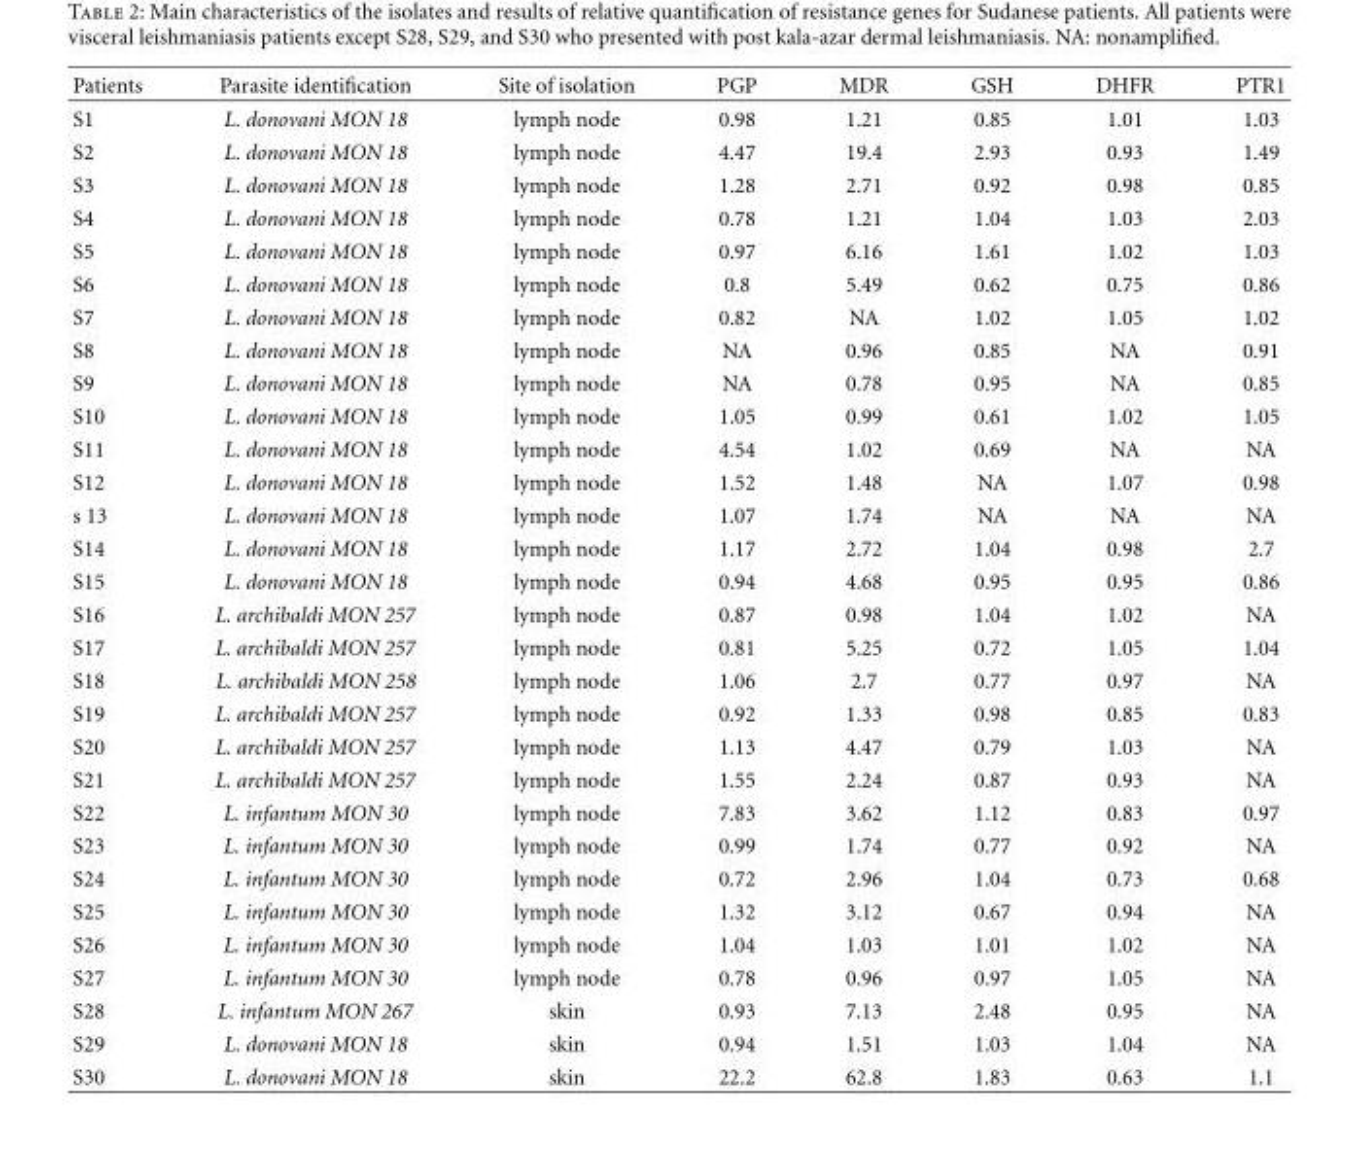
<table><thead><tr><td>Patients</td><td>Parasite identification</td><td>Site of isolation</td><td>PGP</td><td>MDR</td><td>GSH</td><td>DHFR</td><td>PTR1</td></tr></thead><tbody><tr><td>S1</td><td>L. donovani MON 18</td><td>lymph node</td><td>0.98</td><td>1.21</td><td>0.85</td><td>1.01</td><td>1.03</td></tr><tr><td>S2</td><td>L. donovani MON 18</td><td>lymph node</td><td>4.47</td><td>19.4</td><td>2.93</td><td>0.93</td><td>1.49</td></tr><tr><td>S3</td><td>L. donovani MON 18</td><td>lymph node</td><td>1.28</td><td>2.71</td><td>0.92</td><td>0.98</td><td>0.85</td></tr><tr><td>S4</td><td>L. donovani MON 18</td><td>lymph node</td><td>0.78</td><td>1.21</td><td>1.04</td><td>1.03</td><td>2.03</td></tr><tr><td>S5</td><td>L. donovani MON 18</td><td>lymph node</td><td>0.97</td><td>6.16</td><td>1.61</td><td>1.02</td><td>1.03</td></tr><tr><td>S6</td><td>L. donovani MON 18</td><td>lymph node</td><td>0.8</td><td>5.49</td><td>0.62</td><td>0.75</td><td>0.86</td></tr><tr><td>S7</td><td>L. donovani MON 18</td><td>lymph node</td><td>0.82</td><td>NA</td><td>1.02</td><td>1.05</td><td>1.02</td></tr><tr><td>S8</td><td>L. donovani MON 18</td><td>lymph node</td><td>NA</td><td>0.96</td><td>0.85</td><td>NA</td><td>0.91</td></tr><tr><td>S9</td><td>L. donovani MON 18</td><td>lymph node</td><td>NA</td><td>0.78</td><td>0.95</td><td>NA</td><td>0.85</td></tr><tr><td>S10</td><td>L. donovani MON 18</td><td>lymph node</td><td>1.05</td><td>0.99</td><td>0.61</td><td>1.02</td><td>1.05</td></tr><tr><td>S11</td><td>L. donovani MON 18</td><td>lymph node</td><td>4.54</td><td>1.02</td><td>0.69</td><td>NA</td><td>NA</td></tr><tr><td>S12</td><td>L. donovani MON 18</td><td>lymph node</td><td>1.52</td><td>1.48</td><td>NA</td><td>1.07</td><td>0.98</td></tr><tr><td>s 13</td><td>L. donovani MON 18</td><td>lymph node</td><td>1.07</td><td>1.74</td><td>NA</td><td>NA</td><td>NA</td></tr><tr><td>S14</td><td>L. donovani MON 18</td><td>lymph node</td><td>1.17</td><td>2.72</td><td>1.04</td><td>0.98</td><td>2.7</td></tr><tr><td>S15</td><td>L. donovani MON 18</td><td>lymph node</td><td>0.94</td><td>4.68</td><td>0.95</td><td>0.95</td><td>0.86</td></tr><tr><td>S16</td><td>L. archibaldi MON 257</td><td>lymph node</td><td>0.87</td><td>0.98</td><td>1.04</td><td>1.02</td><td>NA</td></tr><tr><td>S17</td><td>L. archibaldi MON 257</td><td>lymph node</td><td>0.81</td><td>5.25</td><td>0.72</td><td>1.05</td><td>1.04</td></tr><tr><td>S18</td><td>L. archibaldi MON 258</td><td>lymph node</td><td>1.06</td><td>2.7</td><td>0.77</td><td>0.97</td><td>NA</td></tr><tr><td>S19</td><td>L. archibaldi MON 257</td><td>lymph node</td><td>0.92</td><td>1.33</td><td>0.98</td><td>0.85</td><td>0.83</td></tr><tr><td>S20</td><td>L. archibaldi MON 257</td><td>lymph node</td><td>1.13</td><td>4.47</td><td>0.79</td><td>1.03</td><td>NA</td></tr><tr><td>S21</td><td>L. archibaldi MON 257</td><td>lymph node</td><td>1.55</td><td>2.24</td><td>0.87</td><td>0.93</td><td>NA</td></tr><tr><td>S22</td><td>L. infantum MON 30</td><td>lymph node</td><td>7.83</td><td>3.62</td><td>1.12</td><td>0.83</td><td>0.97</td></tr><tr><td>S23</td><td>L. infantum MON 30</td><td>lymph node</td><td>0.99</td><td>1.74</td><td>0.77</td><td>0.92</td><td>NA</td></tr><tr><td>S24</td><td>L. infantum MON 30</td><td>lymph node</td><td>0.72</td><td>2.96</td><td>1.04</td><td>0.73</td><td>0.68</td></tr><tr><td>S25</td><td>L. infantum MON 30</td><td>lymph node</td><td>1.32</td><td>3.12</td><td>0.67</td><td>0.94</td><td>NA</td></tr><tr><td>S26</td><td>L. infantum MON 30</td><td>lymph node</td><td>1.04</td><td>1.03</td><td>1.01</td><td>1.02</td><td>NA</td></tr><tr><td>S27</td><td>L. infantum MON 30</td><td>lymph node</td><td>0.78</td><td>0.96</td><td>0.97</td><td>1.05</td><td>NA</td></tr><tr><td>S28</td><td>L. infantum MON 267</td><td>skin</td><td>0.93</td><td>7.13</td><td>2.48</td><td>0.95</td><td>NA</td></tr><tr><td>S29</td><td>L. donovani MON 18</td><td>skin</td><td>0.94</td><td>1.51</td><td>1.03</td><td>1.04</td><td>NA</td></tr><tr><td>S30</td><td>L. donovani MON 18</td><td>skin</td><td>22.2</td><td>62.8</td><td>1.83</td><td>0.63</td><td>1.1</td></tr></tbody></table>